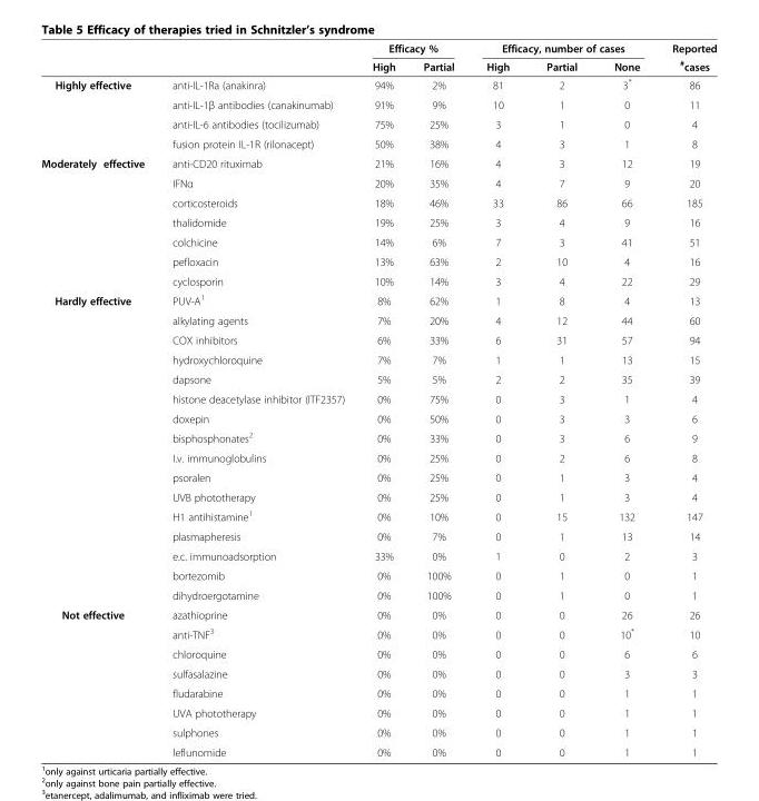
<table><thead><tr><td rowspan="2"></td><td rowspan="2"></td><td colspan="2">Efficacy %</td><td colspan="3">Efficacy, number of cases</td><td rowspan="2">Reported <sup>#</sup>cases</td></tr><tr><td>High</td><td>Partial</td><td>High</td><td>Partial</td><td>None</td></tr></thead><tbody><tr><td rowspan="4">Highly effective</td><td>anti-IL-1Ra (anakinra)</td><td>94%</td><td>2%</td><td>81</td><td>2</td><td>3*</td><td>86</td></tr><tr><td>anti-IL-1β antibodies (canakinumab)</td><td>91%</td><td>9%</td><td>10</td><td>1</td><td>0</td><td>11</td></tr><tr><td>anti-IL-6 antibodies (tocilizumab)</td><td>75%</td><td>25%</td><td>3</td><td>1</td><td>0</td><td>4</td></tr><tr><td>fusion protein IL-1R (rilonacept)</td><td>50%</td><td>38%</td><td>4</td><td>3</td><td>1</td><td>8</td></tr><tr><td rowspan="7">Moderately effective</td><td>anti-CD20 rituximab</td><td>21%</td><td>16%</td><td>4</td><td>3</td><td>12</td><td>19</td></tr><tr><td>IFNα</td><td>20%</td><td>35%</td><td>4</td><td>7</td><td>9</td><td>20</td></tr><tr><td>corticosteroids</td><td>18%</td><td>46%</td><td>33</td><td>86</td><td>66</td><td>185</td></tr><tr><td>thalidomide</td><td>19%</td><td>25%</td><td>3</td><td>4</td><td>9</td><td>16</td></tr><tr><td>colchicine</td><td>14%</td><td>6%</td><td>7</td><td>3</td><td>41</td><td>51</td></tr><tr><td>pefloxacin</td><td>13%</td><td>63%</td><td>2</td><td>10</td><td>4</td><td>16</td></tr><tr><td>cyclosporin</td><td>10%</td><td>14%</td><td>3</td><td>4</td><td>22</td><td>29</td></tr><tr><td rowspan="16">Hardly effective</td><td>PUV-A<sup>1</sup></td><td>8%</td><td>62%</td><td>1</td><td>8</td><td>4</td><td>13</td></tr><tr><td>alkylating agents</td><td>7%</td><td>20%</td><td>4</td><td>12</td><td>44</td><td>60</td></tr><tr><td>COX inhibitors</td><td>6%</td><td>33%</td><td>6</td><td>31</td><td>57</td><td>94</td></tr><tr><td>hydroxychloroquine</td><td>7%</td><td>7%</td><td>1</td><td>1</td><td>13</td><td>15</td></tr><tr><td>dapsone</td><td>5%</td><td>5%</td><td>2</td><td>2</td><td>35</td><td>39</td></tr><tr><td>histone deacetylase inhibitor (ITF2357)</td><td>0%</td><td>75%</td><td>0</td><td>3</td><td>1</td><td>4</td></tr><tr><td>doxepin</td><td>0%</td><td>50%</td><td>0</td><td>3</td><td>3</td><td>6</td></tr><tr><td>bisphosphonates<sup>2</sup></td><td>0%</td><td>33%</td><td>0</td><td>3</td><td>6</td><td>9</td></tr><tr><td>I.v. immunoglobulins</td><td>0%</td><td>25%</td><td>0</td><td>2</td><td>6</td><td>8</td></tr><tr><td>psoralen</td><td>0%</td><td>25%</td><td>0</td><td>1</td><td>3</td><td>4</td></tr><tr><td>UVB phototherapy</td><td>0%</td><td>25%</td><td>0</td><td>1</td><td>3</td><td>4</td></tr><tr><td>H1 antihistamine<sup>1</sup></td><td>0%</td><td>10%</td><td>0</td><td>15</td><td>132</td><td>147</td></tr><tr><td>plasmapheresis</td><td>0%</td><td>7%</td><td>0</td><td>1</td><td>13</td><td>14</td></tr><tr><td>e.c. immunoadsorption</td><td>33%</td><td>0%</td><td>1</td><td>0</td><td>2</td><td>3</td></tr><tr><td>bortezomib</td><td>0%</td><td>100%</td><td>0</td><td>1</td><td>0</td><td>1</td></tr><tr><td>dihydroergotamine</td><td>0%</td><td>100%</td><td>0</td><td>1</td><td>0</td><td>1</td></tr><tr><td rowspan="8">Not effective</td><td>azathioprine</td><td>0%</td><td>0%</td><td>0</td><td>0</td><td>26</td><td>26</td></tr><tr><td>anti-TNF<sup>3</sup></td><td>0%</td><td>0%</td><td>0</td><td>0</td><td>10*</td><td>10</td></tr><tr><td>chloroquine</td><td>0%</td><td>0%</td><td>0</td><td>0</td><td>6</td><td>6</td></tr><tr><td>sulfasalazine</td><td>0%</td><td>0%</td><td>0</td><td>0</td><td>3</td><td>3</td></tr><tr><td>fludarabine</td><td>0%</td><td>0%</td><td>0</td><td>0</td><td>1</td><td>1</td></tr><tr><td>UVA phototherapy</td><td>0%</td><td>0%</td><td>0</td><td>0</td><td>1</td><td>1</td></tr><tr><td>sulphones</td><td>0%</td><td>0%</td><td>0</td><td>0</td><td>1</td><td>1</td></tr><tr><td>leflunomide</td><td>0%</td><td>0%</td><td>0</td><td>0</td><td>1</td><td>1</td></tr></tbody></table>